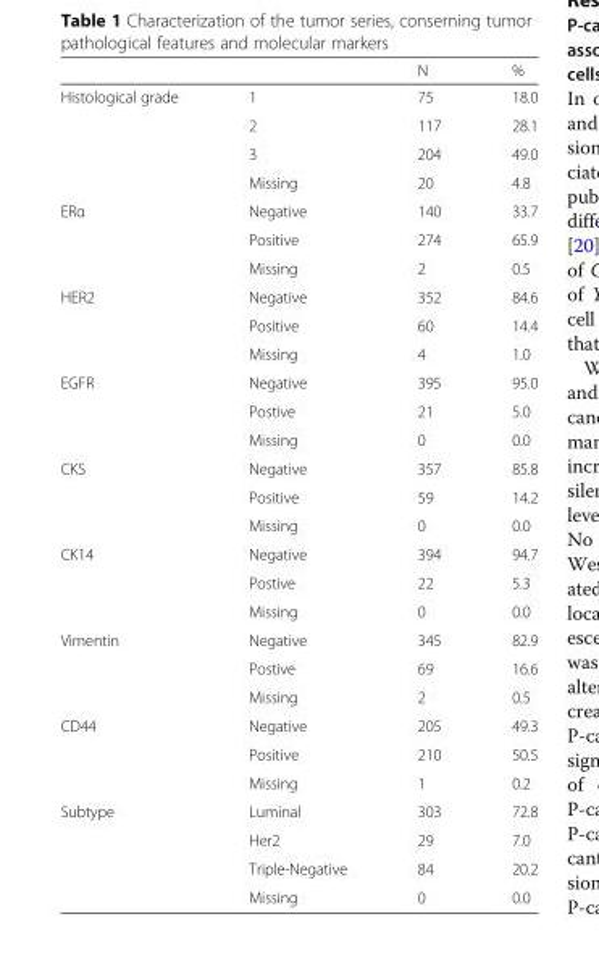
<table><thead><tr><td></td><td></td><td>N</td><td>%</td></tr></thead><tbody><tr><td rowspan="4">Histological grade</td><td>1</td><td>75</td><td>18.0</td></tr><tr><td>2</td><td>117</td><td>28.1</td></tr><tr><td>3</td><td>204</td><td>49.0</td></tr><tr><td>Missing</td><td>20</td><td>4.8</td></tr><tr><td rowspan="3">ERα</td><td>Negative</td><td>140</td><td>33.7</td></tr><tr><td>Positive</td><td>274</td><td>65.9</td></tr><tr><td>Missing</td><td>2</td><td>0.5</td></tr><tr><td rowspan="3">HER2</td><td>Negative</td><td>352</td><td>84.6</td></tr><tr><td>Positive</td><td>60</td><td>14.4</td></tr><tr><td>Missing</td><td>4</td><td>1.0</td></tr><tr><td rowspan="3">EGFR</td><td>Negative</td><td>395</td><td>95.0</td></tr><tr><td>Postive</td><td>21</td><td>5.0</td></tr><tr><td>Missing</td><td>0</td><td>0.0</td></tr><tr><td rowspan="3">CKS</td><td>Negative</td><td>357</td><td>85.8</td></tr><tr><td>Positive</td><td>59</td><td>14.2</td></tr><tr><td>Missing</td><td>0</td><td>0.0</td></tr><tr><td rowspan="3">CK14</td><td>Negative</td><td>394</td><td>94.7</td></tr><tr><td>Postive</td><td>22</td><td>5.3</td></tr><tr><td>Missing</td><td>0</td><td>0.0</td></tr><tr><td rowspan="3">Vimentin</td><td>Negative</td><td>345</td><td>82.9</td></tr><tr><td>Postive</td><td>69</td><td>16.6</td></tr><tr><td>Missing</td><td>2</td><td>0.5</td></tr><tr><td rowspan="3">CD44</td><td>Negative</td><td>205</td><td>49.3</td></tr><tr><td>Positive</td><td>210</td><td>50.5</td></tr><tr><td>Missing</td><td>1</td><td>0.2</td></tr><tr><td rowspan="4">Subtype</td><td>Luminal</td><td>303</td><td>72.8</td></tr><tr><td>Her2</td><td>29</td><td>7.0</td></tr><tr><td>Triple-Negative</td><td>84</td><td>20.2</td></tr><tr><td>Missing</td><td>0</td><td>0.0</td></tr></tbody></table>